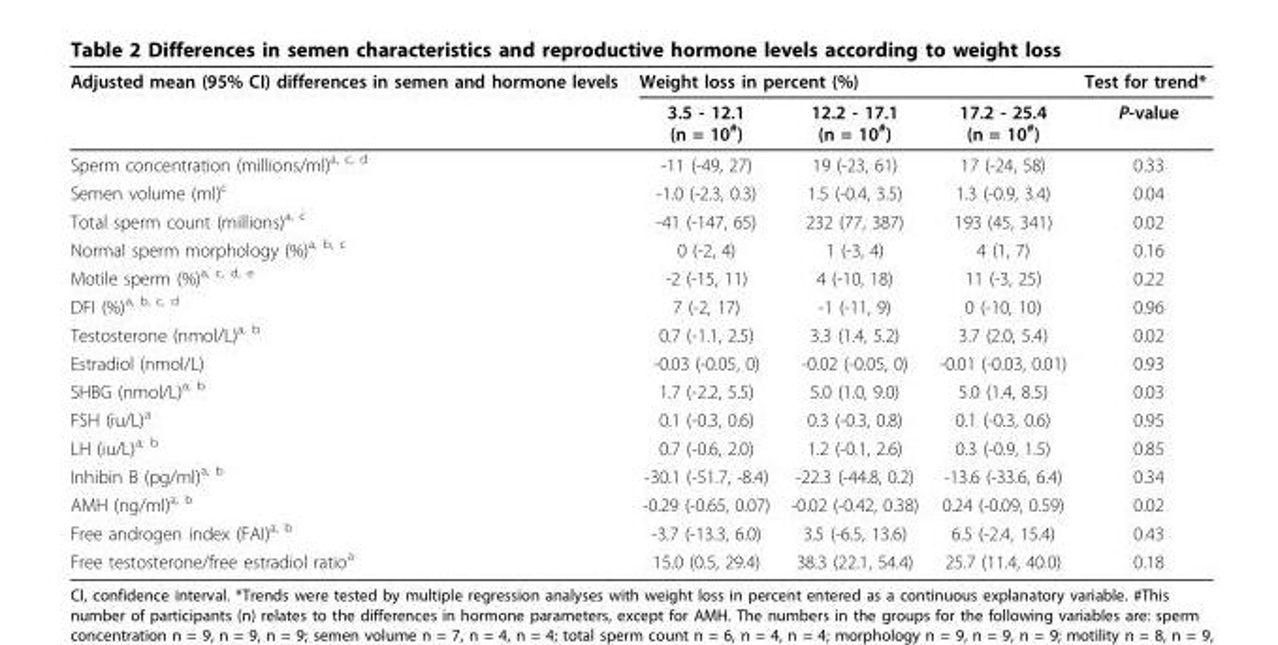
<table><thead><tr><td rowspan="2">Adjusted mean (95% CI) differences in semen and hormone levels</td><td colspan="3">Weight loss in percent (%)</td><td rowspan="2">Test for trend* P-value</td></tr><tr><td>3.5 - 12.1 (n = 10<sup>#</sup>)</td><td>12.2 - 17.1 (n = 10<sup>#</sup>)</td><td>17.2 - 25.4 (n = 10<sup>#</sup>)</td></tr></thead><tbody><tr><td>Sperm concentration (millions/ml)<sup>a, c, d</sup></td><td>-11 (-49, 27)</td><td>19 (-23, 61)</td><td>17 (-24, 58)</td><td>0.33</td></tr><tr><td>Semen volume (ml)<sup>c</sup></td><td>-1.0 (-2.3, 0.3)</td><td>1.5 (-0.4, 3.5)</td><td>1.3 (-0.9, 3.4)</td><td>0.04</td></tr><tr><td>Total sperm count (millions)<sup>a, c</sup></td><td>-41 (-147, 65)</td><td>232 (77, 387)</td><td>193 (45, 341)</td><td>0.02</td></tr><tr><td>Normal sperm morphology (%)<sup>a, b, c</sup></td><td>0 (-2, 4)</td><td>1 (-3, 4)</td><td>4 (1, 7)</td><td>0.16</td></tr><tr><td>Motile sperm (%)<sup>a, c, d, e</sup></td><td>-2 (-15, 11)</td><td>4 (-10, 18)</td><td>11 (-3, 25)</td><td>0.22</td></tr><tr><td>DFI (%)<sup>a, b, c, d</sup></td><td>7 (-2, 17)</td><td>-1 (-11, 9)</td><td>0 (-10, 10)</td><td>0.96</td></tr><tr><td>Testosterone (nmol/L)<sup>a, b</sup></td><td>0.7 (-1.1, 2.5)</td><td>3.3 (1.4, 5.2)</td><td>3.7 (2.0, 5.4)</td><td>0.02</td></tr><tr><td>Estradiol (nmol/L)</td><td>-0.03 (-0.05, 0)</td><td>-0.02 (-0.05, 0)</td><td>-0.01 (-0.03, 0.01)</td><td>0.93</td></tr><tr><td>SHBG (nmol/L)<sup>a, b</sup></td><td>1.7 (-2.2, 5.5)</td><td>5.0 (1.0, 9.0)</td><td>5.0 (1.4, 8.5)</td><td>0.03</td></tr><tr><td>FSH (iu/L)<sup>a</sup></td><td>0.1 (-0.3, 0.6)</td><td>0.3 (-0.3, 0.8)</td><td>0.1 (-0.3, 0.6)</td><td>0.95</td></tr><tr><td>LH (iu/L)<sup>a, b</sup></td><td>0.7 (-0.6, 2.0)</td><td>1.2 (-0.1, 2.6)</td><td>0.3 (-0.9, 1.5)</td><td>0.85</td></tr><tr><td>Inhibin B (pg/ml)<sup>a, b</sup></td><td>-30.1 (-51.7, -8.4)</td><td>-22.3 (-44.8, 0.2)</td><td>-13.6 (-33.6, 6.4)</td><td>0.34</td></tr><tr><td>AMH (ng/ml)<sup>a, b</sup></td><td>-0.29 (-0.65, 0.07)</td><td>-0.02 (-0.42, 0.38)</td><td>0.24 (-0.09, 0.59)</td><td>0.02</td></tr><tr><td>Free androgen index (FAI)<sup>a, b</sup></td><td>-3.7 (-13.3, 6.0)</td><td>3.5 (-6.5, 13.6)</td><td>6.5 (-2.4, 15.4)</td><td>0.43</td></tr><tr><td>Free testosterone/free estradiol ratio<sup>a</sup></td><td>15.0 (0.5, 29.4)</td><td>38.3 (22.1, 54.4)</td><td>25.7 (11.4, 40.0)</td><td>0.18</td></tr></tbody></table>